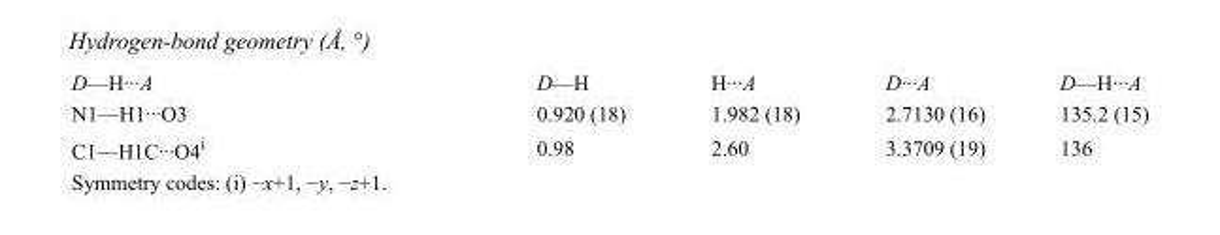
<table><tbody><tr><td>D—H···A</td><td>D—H</td><td>H···A</td><td>D···A</td><td>D—H···A</td></tr><tr><td>N1—H1···O3</td><td>0.920 (18)</td><td>1.982 (18)</td><td>2.7130 (16)</td><td>135.2 (15)</td></tr><tr><td>C1—H1C···O4<sup>i</sup></td><td>0.98</td><td>2.60</td><td>3.3709 (19)</td><td>136</td></tr></tbody></table>